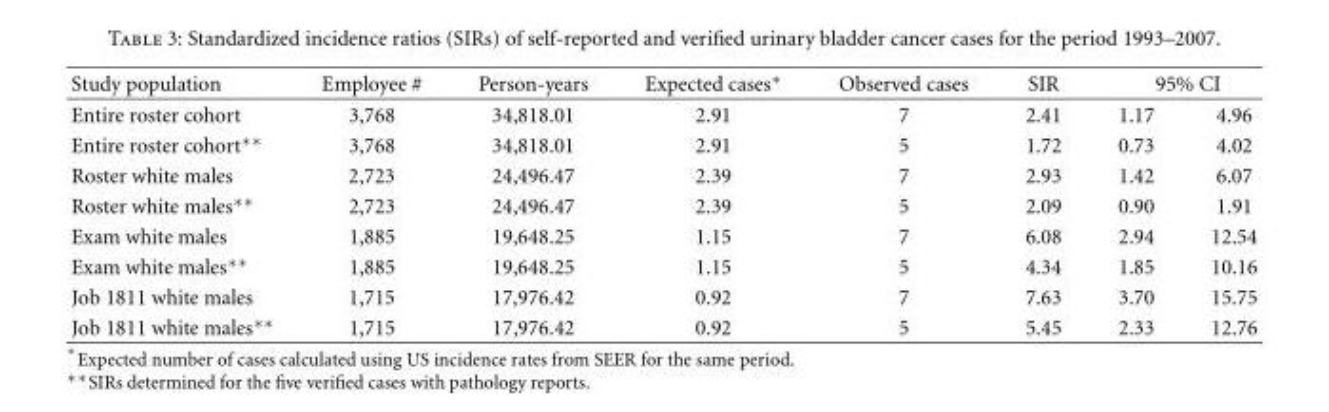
<table><thead><tr><td rowspan="2">Study population Entire roster cohort</td><td rowspan="2">Employee # 3,768</td><td rowspan="2">Person-years 34,818.01</td><td rowspan="2">Expected cases∗ 2.91</td><td rowspan="2">Observed cases 7</td><td rowspan="2">SIR 2.41</td><td colspan="2">95% CI</td></tr><tr><td>1.17</td><td>4.96</td></tr></thead><tbody><tr><td>Entire roster cohort∗∗</td><td>3,768</td><td>34,818.01</td><td>2.91</td><td>5</td><td>1.72</td><td>0.73</td><td>4.02</td></tr><tr><td>Roster white males</td><td>2,723</td><td>24,496.47</td><td>2.39</td><td>7</td><td>2.93</td><td>1.42</td><td>6.07</td></tr><tr><td>Roster white males∗∗</td><td>2,723</td><td>24,496.47</td><td>2.39</td><td>5</td><td>2.09</td><td>0.90</td><td>1.91</td></tr><tr><td>Exam white males</td><td>1,885</td><td>19,648.25</td><td>1.15</td><td>7</td><td>6.08</td><td>2.94</td><td>12.54</td></tr><tr><td>Exam white males∗∗</td><td>1,885</td><td>19,648.25</td><td>1.15</td><td>5</td><td>4.34</td><td>1.85</td><td>10.16</td></tr><tr><td>Job 1811 white males</td><td>1,715</td><td>17,976.42</td><td>0.92</td><td>7</td><td>7.63</td><td>3.70</td><td>15.75</td></tr><tr><td>Job 1811 white males∗∗</td><td>1,715</td><td>17,976.42</td><td>0.92</td><td>5</td><td>5.45</td><td>2.33</td><td>12.76</td></tr></tbody></table>